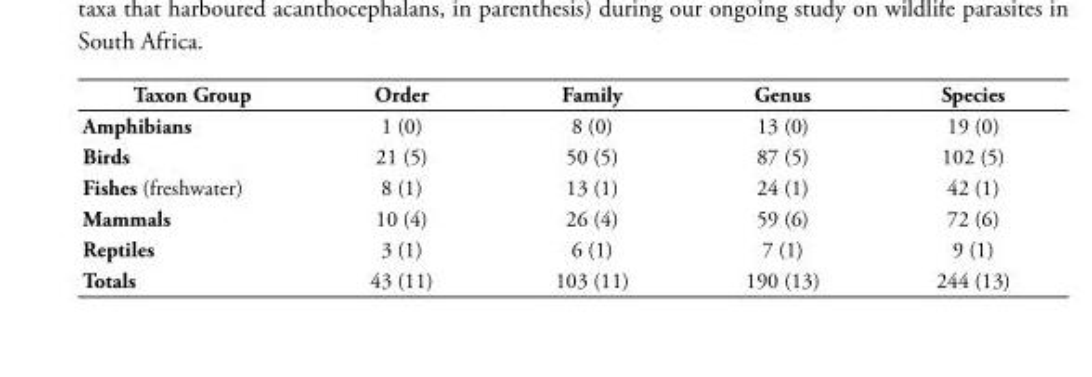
<table><thead><tr><td>Taxon Group</td><td>Order</td><td>Family</td><td>Genus</td><td>Species</td></tr></thead><tbody><tr><td>Amphibians</td><td>1 (0)</td><td>8 (0)</td><td>13 (0)</td><td>19 (0)</td></tr><tr><td>Birds</td><td>21 (5)</td><td>50 (5)</td><td>87 (5)</td><td>102 (5)</td></tr><tr><td>Fishes (freshwater)</td><td>8 (1)</td><td>13 (1)</td><td>24 (1)</td><td>42 (1)</td></tr><tr><td>Mammals</td><td>10 (4)</td><td>26 (4)</td><td>59 (6)</td><td>72 (6)</td></tr><tr><td>Reptiles</td><td>3 (1)</td><td>6 (1)</td><td>7 (1)</td><td>9 (1)</td></tr><tr><td>Totals</td><td>43 (11)</td><td>103 (11)</td><td>190 (13)</td><td>244 (13)</td></tr></tbody></table>